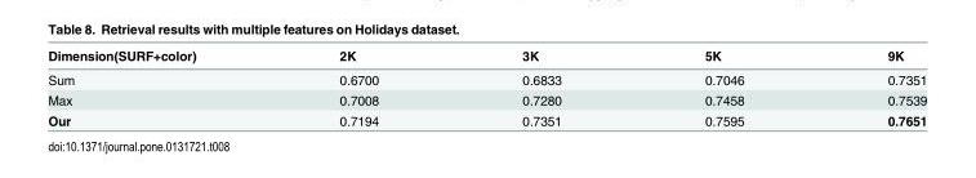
<table><thead><tr><td>Dimension(SURF+color)</td><td>2K</td><td>3K</td><td>5K</td><td>9K</td></tr></thead><tbody><tr><td>Sum</td><td>0.6700</td><td>0.6833</td><td>0.7046</td><td>0.7351</td></tr><tr><td>Max</td><td>0.7008</td><td>0.7280</td><td>0.7458</td><td>0.7539</td></tr><tr><td>Our</td><td>0.7194</td><td>0.7351</td><td>0.7595</td><td>0.7651</td></tr></tbody></table>